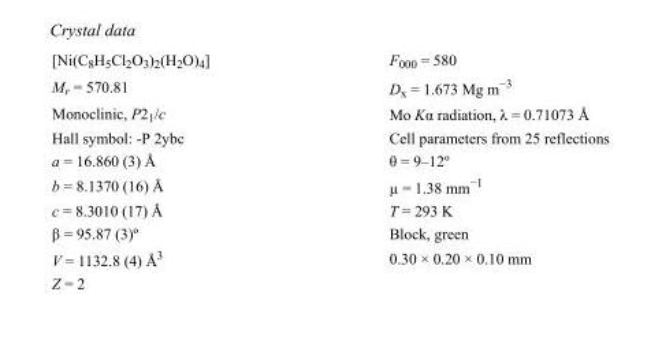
<table><tbody><tr><td>[Ni(C<sub>8</sub>H<sub>5</sub>Cl<sub>2</sub>O<sub>3</sub>)<sub>2</sub>(H<sub>2</sub>O)<sub>4</sub>]</td><td>F000 = 580</td></tr><tr><td>M<sub>r</sub> = 570.81</td><td>D<sub>x</sub> = 1.673 Mg m<sup>−3</sup></td></tr><tr><td>Monoclinic, P2<sub>1</sub>/c</td><td>Mo Kα radiation, λ = 0.71073 Å</td></tr><tr><td>Hall symbol: -P 2ybc</td><td>Cell parameters from 25 reflections</td></tr><tr><td>a = 16.860 (3) Å</td><td>θ = 9–12º</td></tr><tr><td>b = 8.1370 (16) Å</td><td>µ = 1.38 mm<sup>−1</sup></td></tr><tr><td>c = 8.3010 (17) Å</td><td>T = 293 K</td></tr><tr><td>β = 95.87 (3)º</td><td>Block, green</td></tr><tr><td>V = 1132.8 (4) Å<sup>3</sup></td><td>0.30 × 0.20 × 0.10 mm</td></tr><tr><td>Z = 2</td><td></td></tr></tbody></table>